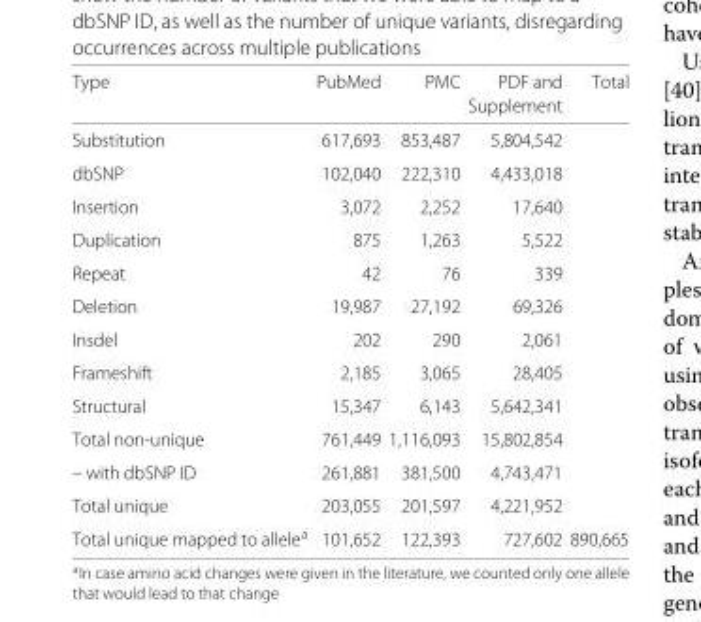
<table><thead><tr><td rowspan="2">Type</td><td rowspan="2">PubMed</td><td rowspan="2">PMC</td><td rowspan="2">PDF and Supplement</td><td rowspan="2">Total</td></tr><tr></tr></thead><tbody><tr><td>Substitution</td><td>617,693</td><td>853,487</td><td>5,804,542</td><td></td></tr><tr><td>dbSNP</td><td>102,040</td><td>222,310</td><td>4,433,018</td><td></td></tr><tr><td>Insertion</td><td>3,072</td><td>2,252</td><td>17,640</td><td></td></tr><tr><td>Duplication</td><td>875</td><td>1,263</td><td>5,522</td><td></td></tr><tr><td>Repeat</td><td>42</td><td>76</td><td>339</td><td></td></tr><tr><td>Deletion</td><td>19,987</td><td>27,192</td><td>69,326</td><td></td></tr><tr><td>Insdel</td><td>202</td><td>290</td><td>2,061</td><td></td></tr><tr><td>Frameshift</td><td>2,185</td><td>3,065</td><td>28,405</td><td></td></tr><tr><td>Structural</td><td>15,347</td><td>6,143</td><td>5,642,341</td><td></td></tr><tr><td>Total non-unique</td><td>761,449</td><td>1,116,093</td><td>15,802,854</td><td></td></tr><tr><td>– with dbSNP ID</td><td>261,881</td><td>381,500</td><td>4,743,471</td><td></td></tr><tr><td>Total unique</td><td>203,055</td><td>201,597</td><td>4,221,952</td><td></td></tr><tr><td>Total unique mapped to allele<sup>a</sup></td><td>101,652</td><td>122,393</td><td>727,602</td><td>890,665</td></tr></tbody></table>